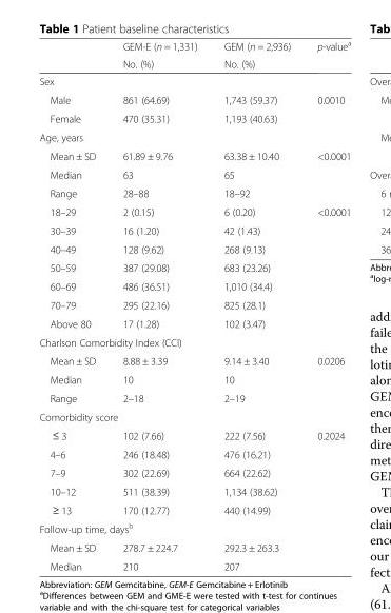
<table><thead><tr><td rowspan="2"></td><td rowspan="2">GEM-E (n = 1,331) No. (%)</td><td rowspan="2">GEM (n = 2,936) No. (%)</td><td rowspan="2">p-value<sup>a</sup></td></tr><tr></tr></thead><tbody><tr><td colspan="4">Sex</td></tr><tr><td>Male</td><td>861 (64.69)</td><td>1,743 (59.37)</td><td>0.0010</td></tr><tr><td>Female</td><td>470 (35.31)</td><td>1,193 (40.63)</td><td></td></tr><tr><td colspan="4">Age, years</td></tr><tr><td>Mean ± SD</td><td>61.89 ± 9.76</td><td>63.38 ± 10.40</td><td>&lt;0.0001</td></tr><tr><td>Median</td><td>63</td><td>65</td><td></td></tr><tr><td>Range</td><td>28–88</td><td>18–92</td><td></td></tr><tr><td>18–29</td><td>2 (0.15)</td><td>6 (0.20)</td><td>&lt;0.0001</td></tr><tr><td>30–39</td><td>16 (1.20)</td><td>42 (1.43)</td><td></td></tr><tr><td>40–49</td><td>128 (9.62)</td><td>268 (9.13)</td><td></td></tr><tr><td>50–59</td><td>387 (29.08)</td><td>683 (23.26)</td><td></td></tr><tr><td>60–69</td><td>486 (36.51)</td><td>1,010 (34.4)</td><td></td></tr><tr><td>70–79</td><td>295 (22.16)</td><td>825 (28.1)</td><td></td></tr><tr><td>Above 80</td><td>17 (1.28)</td><td>102 (3.47)</td><td></td></tr><tr><td colspan="4">Charlson Comorbidity Index (CCI)</td></tr><tr><td>Mean ± SD</td><td>8.88 ± 3.39</td><td>9.14 ± 3.40</td><td>0.0206</td></tr><tr><td>Median</td><td>10</td><td>10</td><td></td></tr><tr><td>Range</td><td>2–18</td><td>2–19</td><td></td></tr><tr><td colspan="4">Comorbidity score</td></tr><tr><td>≤ 3</td><td>102 (7.66)</td><td>222 (7.56)</td><td>0.2024</td></tr><tr><td>4–6</td><td>246 (18.48)</td><td>476 (16.21)</td><td></td></tr><tr><td>7–9</td><td>302 (22.69)</td><td>664 (22.62)</td><td></td></tr><tr><td>10–12</td><td>511 (38.39)</td><td>1,134 (38.62)</td><td></td></tr><tr><td>≥ 13</td><td>170 (12.77)</td><td>440 (14.99)</td><td></td></tr><tr><td colspan="4">Follow-up time, days<sup>b</sup></td></tr><tr><td>Mean ± SD</td><td>278.7 ± 224.7</td><td>292.3 ± 263.3</td><td></td></tr><tr><td>Median</td><td>210</td><td>207</td><td></td></tr></tbody></table>